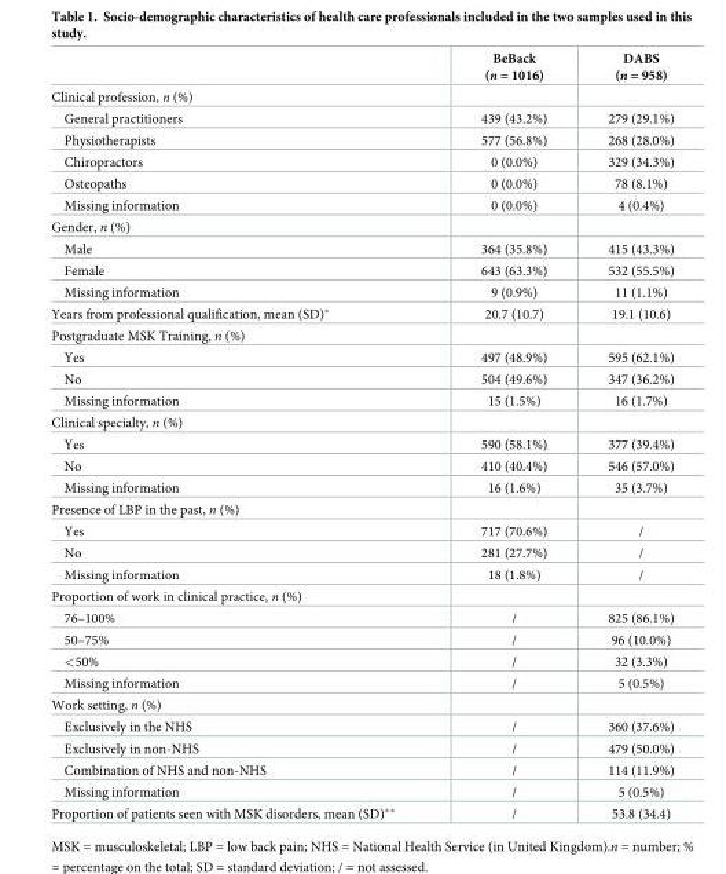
<table><thead><tr><td></td><td>BeBack (n = 1016)</td><td>DABS (n = 958)</td></tr></thead><tbody><tr><td colspan="3">Clinical profession, n (%)</td></tr><tr><td>General practitioners</td><td>439 (43.2%)</td><td>279 (29.1%)</td></tr><tr><td>Physiotherapists</td><td>577 (56.8%)</td><td>268 (28.0%)</td></tr><tr><td>Chiropractors</td><td>0 (0.0%)</td><td>329 (34.3%)</td></tr><tr><td>Osteopaths</td><td>0 (0.0%)</td><td>78 (8.1%)</td></tr><tr><td>Missing information</td><td>0 (0.0%)</td><td>4 (0.4%)</td></tr><tr><td colspan="3">Gender, n (%)</td></tr><tr><td>Male</td><td>364 (35.8%)</td><td>415 (43.3%)</td></tr><tr><td>Female</td><td>643 (63.3%)</td><td>532 (55.5%)</td></tr><tr><td>Missing information</td><td>9 (0.9%)</td><td>11 (1.1%)</td></tr><tr><td>Years from professional qualification, mean (SD)*</td><td>20.7 (10.7)</td><td>19.1 (10.6)</td></tr><tr><td colspan="3">Postgraduate MSK Training, n (%)</td></tr><tr><td>Yes</td><td>497 (48.9%)</td><td>595 (62.1%)</td></tr><tr><td>No</td><td>504 (49.6%)</td><td>347 (36.2%)</td></tr><tr><td>Missing information</td><td>15 (1.5%)</td><td>16 (1.7%)</td></tr><tr><td colspan="3">Clinical specialty, n (%)</td></tr><tr><td>Yes</td><td>590 (58.1%)</td><td>377 (39.4%)</td></tr><tr><td>No</td><td>410 (40.4%)</td><td>546 (57.0%)</td></tr><tr><td>Missing information</td><td>16 (1.6%)</td><td>35 (3.7%)</td></tr><tr><td colspan="3">Presence of LBP in the past, n (%)</td></tr><tr><td>Yes</td><td>717 (70.6%)</td><td>/</td></tr><tr><td>No</td><td>281 (27.7%)</td><td>/</td></tr><tr><td>Missing information</td><td>18 (1.8%)</td><td>/</td></tr><tr><td colspan="3">Proportion of work in clinical practice, n (%)</td></tr><tr><td>76–100%</td><td>/</td><td>825 (86.1%)</td></tr><tr><td>50–75%</td><td>/</td><td>96 (10.0%)</td></tr><tr><td>&lt;50%</td><td>/</td><td>32 (3.3%)</td></tr><tr><td>Missing information</td><td>/</td><td>5 (0.5%)</td></tr><tr><td colspan="3">Work setting, n (%)</td></tr><tr><td>Exclusively in the NHS</td><td>/</td><td>360 (37.6%)</td></tr><tr><td>Exclusively in non-NHS</td><td>/</td><td>479 (50.0%)</td></tr><tr><td>Combination of NHS and non-NHS</td><td>/</td><td>114 (11.9%)</td></tr><tr><td>Missing information</td><td>/</td><td>5 (0.5%)</td></tr><tr><td>Proportion of patients seen with MSK disorders, mean (SD)**</td><td>/</td><td>53.8 (34.4)</td></tr></tbody></table>